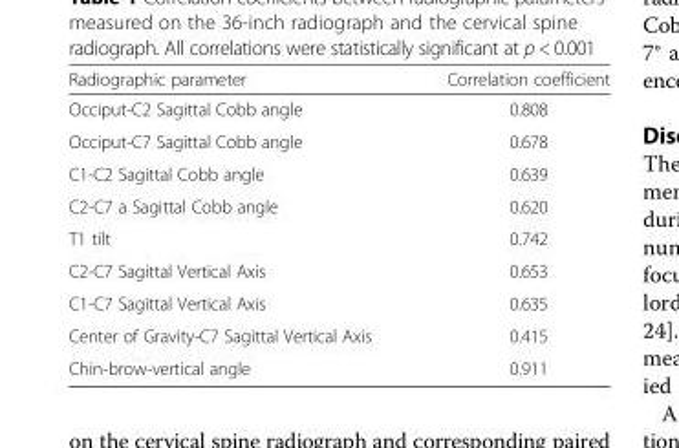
<table><thead><tr><td>Radiographic parameter</td><td>Correlation coefficient</td></tr></thead><tbody><tr><td>Occiput-C2 Sagittal Cobb angle</td><td>0.808</td></tr><tr><td>Occiput-C7 Sagittal Cobb angle</td><td>0.678</td></tr><tr><td>C1-C2 Sagittal Cobb angle</td><td>0.639</td></tr><tr><td>C2-C7 a Sagittal Cobb angle</td><td>0.620</td></tr><tr><td>T1 tilt</td><td>0.742</td></tr><tr><td>C2-C7 Sagittal Vertical Axis</td><td>0.653</td></tr><tr><td>C1-C7 Sagittal Vertical Axis</td><td>0.635</td></tr><tr><td>Center of Gravity-C7 Sagittal Vertical Axis</td><td>0.415</td></tr><tr><td>Chin-brow-vertical angle</td><td>0.911</td></tr></tbody></table>